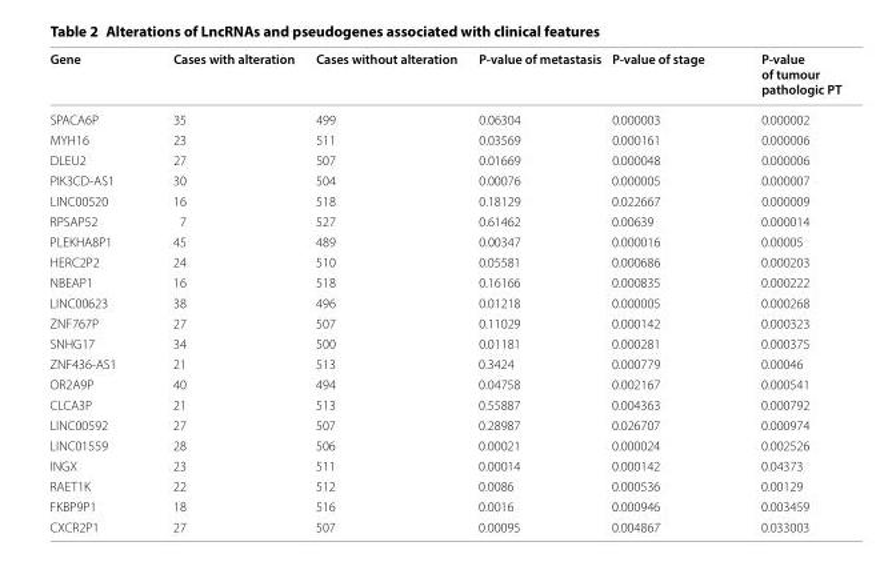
<table><thead><tr><td>Gene</td><td>Cases with alteration</td><td>Cases without alteration</td><td>P‑value of metastasis</td><td>P‑value of stage</td><td>P‑value of tumour pathologic PT</td></tr></thead><tbody><tr><td>SPACA6P</td><td>35</td><td>499</td><td>0.06304</td><td>0.000003</td><td>0.000002</td></tr><tr><td>MYH16</td><td>23</td><td>511</td><td>0.03569</td><td>0.000161</td><td>0.000006</td></tr><tr><td>DLEU2</td><td>27</td><td>507</td><td>0.01669</td><td>0.000048</td><td>0.000006</td></tr><tr><td>PIK3CD-AS1</td><td>30</td><td>504</td><td>0.00076</td><td>0.000005</td><td>0.000007</td></tr><tr><td>LINC00520</td><td>16</td><td>518</td><td>0.18129</td><td>0.022667</td><td>0.000009</td></tr><tr><td>RPSAP52</td><td>7</td><td>527</td><td>0.61462</td><td>0.00639</td><td>0.000014</td></tr><tr><td>PLEKHA8P1</td><td>45</td><td>489</td><td>0.00347</td><td>0.000016</td><td>0.00005</td></tr><tr><td>HERC2P2</td><td>24</td><td>510</td><td>0.05581</td><td>0.000686</td><td>0.000203</td></tr><tr><td>NBEAP1</td><td>16</td><td>518</td><td>0.16166</td><td>0.000835</td><td>0.000222</td></tr><tr><td>LINC00623</td><td>38</td><td>496</td><td>0.01218</td><td>0.000005</td><td>0.000268</td></tr><tr><td>ZNF767P</td><td>27</td><td>507</td><td>0.11029</td><td>0.000142</td><td>0.000323</td></tr><tr><td>SNHG17</td><td>34</td><td>500</td><td>0.01181</td><td>0.000281</td><td>0.000375</td></tr><tr><td>ZNF436-AS1</td><td>21</td><td>513</td><td>0.3424</td><td>0.000779</td><td>0.00046</td></tr><tr><td>OR2A9P</td><td>40</td><td>494</td><td>0.04758</td><td>0.002167</td><td>0.000541</td></tr><tr><td>CLCA3P</td><td>21</td><td>513</td><td>0.55887</td><td>0.004363</td><td>0.000792</td></tr><tr><td>LINC00592</td><td>27</td><td>507</td><td>0.28987</td><td>0.026707</td><td>0.000974</td></tr><tr><td>LINC01559</td><td>28</td><td>506</td><td>0.00021</td><td>0.000024</td><td>0.002526</td></tr><tr><td>INGX</td><td>23</td><td>511</td><td>0.00014</td><td>0.000142</td><td>0.04373</td></tr><tr><td>RAET1K</td><td>22</td><td>512</td><td>0.0086</td><td>0.000536</td><td>0.00129</td></tr><tr><td>FKBP9P1</td><td>18</td><td>516</td><td>0.0016</td><td>0.000946</td><td>0.003459</td></tr><tr><td>CXCR2P1</td><td>27</td><td>507</td><td>0.00095</td><td>0.004867</td><td>0.033003</td></tr></tbody></table>